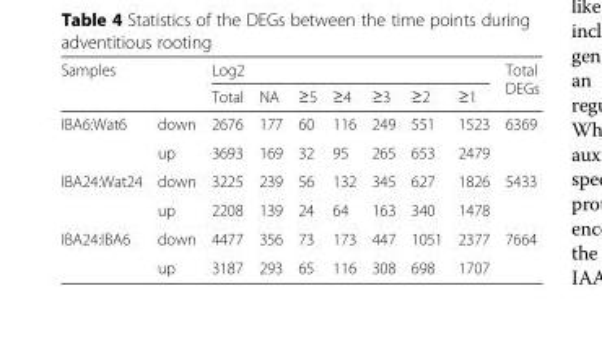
<table><thead><tr><td rowspan="2">Samples</td><td rowspan="2"></td><td colspan="7">Log2</td><td rowspan="2">Total DEGs</td></tr><tr><td>Total</td><td>NA</td><td>≥5</td><td>≥4</td><td>≥3</td><td>≥2</td><td>≥1</td></tr></thead><tbody><tr><td rowspan="2">IBA6:Wat6</td><td>down</td><td>2676</td><td>177</td><td>60</td><td>116</td><td>249</td><td>551</td><td>1523</td><td rowspan="2">6369</td></tr><tr><td>up</td><td>3693</td><td>169</td><td>32</td><td>95</td><td>265</td><td>653</td><td>2479</td></tr><tr><td rowspan="2">IBA24:Wat24</td><td>down</td><td>3225</td><td>239</td><td>56</td><td>132</td><td>345</td><td>627</td><td>1826</td><td rowspan="2">5433</td></tr><tr><td>up</td><td>2208</td><td>139</td><td>24</td><td>64</td><td>163</td><td>340</td><td>1478</td></tr><tr><td rowspan="2">IBA24:IBA6</td><td>down</td><td>4477</td><td>356</td><td>73</td><td>173</td><td>447</td><td>1051</td><td>2377</td><td rowspan="2">7664</td></tr><tr><td>up</td><td>3187</td><td>293</td><td>65</td><td>116</td><td>308</td><td>698</td><td>1707</td></tr></tbody></table>